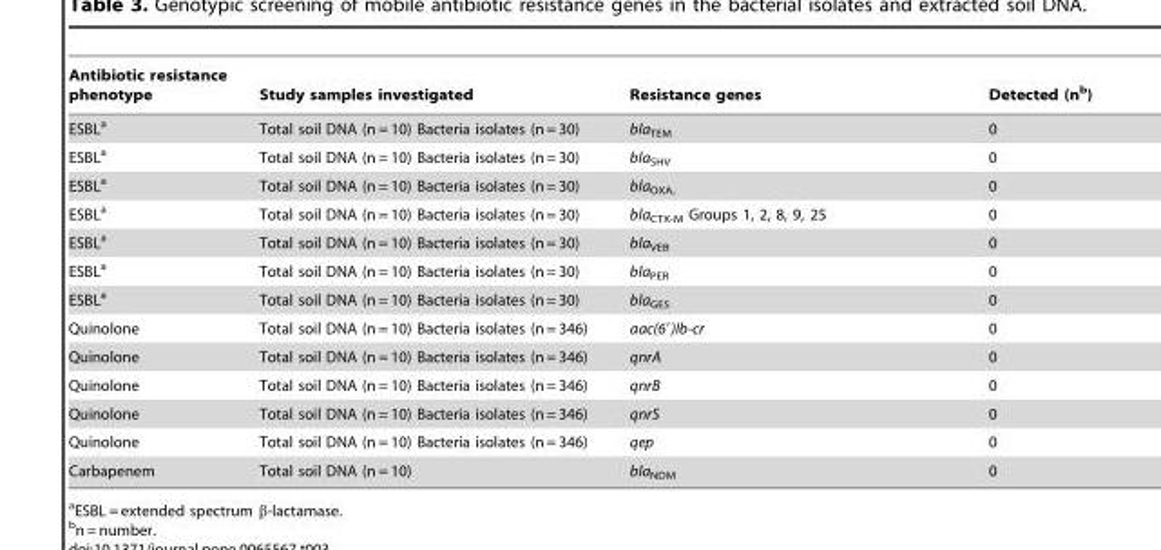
<table><thead><tr><td>Antibiotic resistance phenotype</td><td>Study samples investigated</td><td>Resistance genes</td><td>Detected (n<sup>b</sup>)</td></tr></thead><tbody><tr><td>ESBL<sup>a</sup></td><td>Total soil DNA (n = 10) Bacteria isolates (n = 30)</td><td>bla<sub>TEM</sub></td><td>0</td></tr><tr><td>ESBL<sup>a</sup></td><td>Total soil DNA (n = 10) Bacteria isolates (n = 30)</td><td>bla<sub>SHV</sub></td><td>0</td></tr><tr><td>ESBL<sup>a</sup></td><td>Total soil DNA (n = 10) Bacteria isolates (n = 30)</td><td>bla<sub>OXA,</sub></td><td>0</td></tr><tr><td>ESBL<sup>a</sup></td><td>Total soil DNA (n = 10) Bacteria isolates (n = 30)</td><td>bla<sub>CTX-M</sub> Groups 1, 2, 8, 9, 25</td><td>0</td></tr><tr><td>ESBL<sup>a</sup></td><td>Total soil DNA (n = 10) Bacteria isolates (n = 30)</td><td>bla<sub>VEB</sub></td><td>0</td></tr><tr><td>ESBL<sup>a</sup></td><td>Total soil DNA (n = 10) Bacteria isolates (n = 30)</td><td>bla<sub>PER</sub></td><td>0</td></tr><tr><td>ESBL<sup>a</sup></td><td>Total soil DNA (n = 10) Bacteria isolates (n = 30)</td><td>bla<sub>GES</sub></td><td>0</td></tr><tr><td>Quinolone</td><td>Total soil DNA (n = 10) Bacteria isolates (n = 346)</td><td>aac(6′)Ib-cr</td><td>0</td></tr><tr><td>Quinolone</td><td>Total soil DNA (n = 10) Bacteria isolates (n = 346)</td><td>qnrA</td><td>0</td></tr><tr><td>Quinolone</td><td>Total soil DNA (n = 10) Bacteria isolates (n = 346)</td><td>qnrB</td><td>0</td></tr><tr><td>Quinolone</td><td>Total soil DNA (n = 10) Bacteria isolates (n = 346)</td><td>qnrS</td><td>0</td></tr><tr><td>Quinolone</td><td>Total soil DNA (n = 10) Bacteria isolates (n = 346)</td><td>qep</td><td>0</td></tr><tr><td>Carbapenem</td><td>Total soil DNA (n = 10)</td><td>bla<sub>NDM</sub></td><td>0</td></tr></tbody></table>